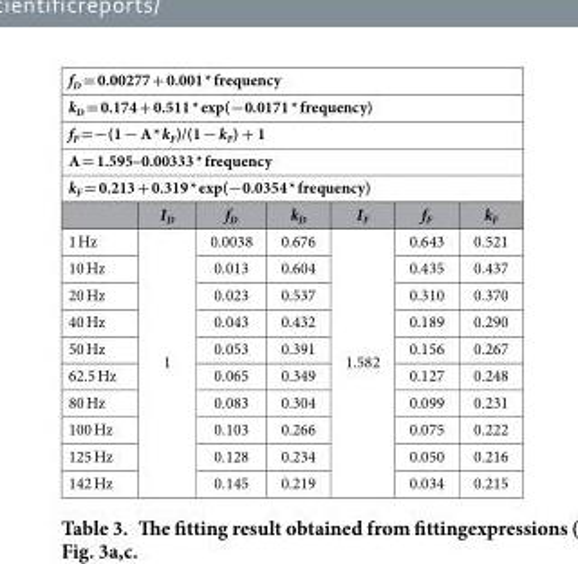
<table><tbody><tr><td colspan="7">f<sub>D</sub> = 0.00277 + 0.001 * frequency</td></tr><tr><td colspan="7">k<sub>D</sub> = 0.174 + 0.511 * exp(−0.0171 * frequency)</td></tr><tr><td colspan="7">f<sub>F</sub> =−(1 − A * k<sub>F</sub>)/(1 − k<sub>F</sub>) + 1</td></tr><tr><td colspan="7">A = 1.595–0.00333 * frequency</td></tr><tr><td colspan="7">k<sub>F</sub> = 0.213 + 0.319 * exp(−0.0354 * frequency)</td></tr><tr><td></td><td>I<sub>D</sub></td><td>f<sub>D</sub></td><td>k<sub>D</sub></td><td>I<sub>F</sub></td><td>f<sub>F</sub></td><td>k<sub>F</sub></td></tr><tr><td>1 Hz</td><td rowspan="10">1</td><td>0.0038</td><td>0.676</td><td rowspan="10">1.582</td><td>0.643</td><td>0.521</td></tr><tr><td>10 Hz</td><td>0.013</td><td>0.604</td><td>0.435</td><td>0.437</td></tr><tr><td>20 Hz</td><td>0.023</td><td>0.537</td><td>0.310</td><td>0.370</td></tr><tr><td>40 Hz</td><td>0.043</td><td>0.432</td><td>0.189</td><td>0.290</td></tr><tr><td>50 Hz</td><td>0.053</td><td>0.391</td><td>0.156</td><td>0.267</td></tr><tr><td>62.5 Hz</td><td>0.065</td><td>0.349</td><td>0.127</td><td>0.248</td></tr><tr><td>80 Hz</td><td>0.083</td><td>0.304</td><td>0.099</td><td>0.231</td></tr><tr><td>100 Hz</td><td>0.103</td><td>0.266</td><td>0.075</td><td>0.222</td></tr><tr><td>125 Hz</td><td>0.128</td><td>0.234</td><td>0.050</td><td>0.216</td></tr><tr><td>142 Hz</td><td>0.145</td><td>0.219</td><td>0.034</td><td>0.215</td></tr></tbody></table>